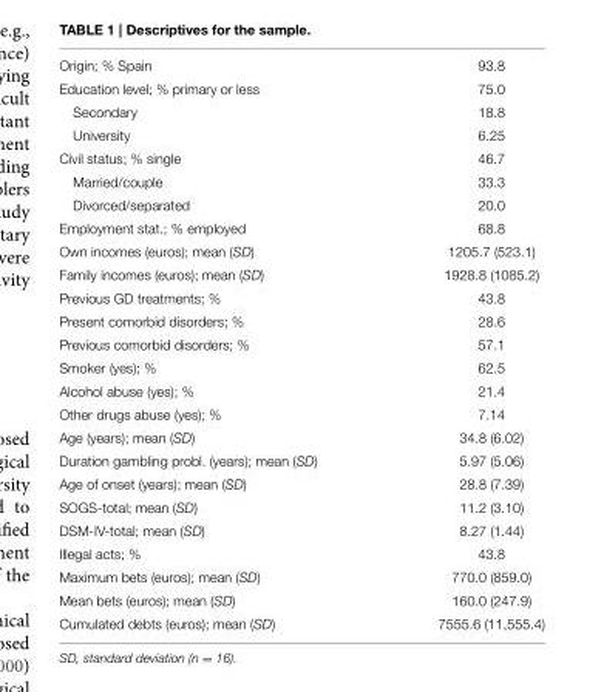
<table><tbody><tr><td>Origin; % Spain</td><td>93.8</td></tr><tr><td>Education level; % primary or less</td><td>75.0</td></tr><tr><td>Secondary</td><td>18.8</td></tr><tr><td>University</td><td>6.25</td></tr><tr><td>Civil status; % single</td><td>46.7</td></tr><tr><td>Married/couple</td><td>33.3</td></tr><tr><td>Divorced/separated</td><td>20.0</td></tr><tr><td>Employment stat.; % employed</td><td>68.8</td></tr><tr><td>Own incomes (euros); mean (SD)</td><td>1205.7 (523.1)</td></tr><tr><td>Family incomes (euros); mean (SD)</td><td>1928.8 (1085.2)</td></tr><tr><td>Previous GD treatments; %</td><td>43.8</td></tr><tr><td>Present comorbid disorders; %</td><td>28.6</td></tr><tr><td>Previous comorbid disorders; %</td><td>57.1</td></tr><tr><td>Smoker (yes); %</td><td>62.5</td></tr><tr><td>Alcohol abuse (yes); %</td><td>21.4</td></tr><tr><td>Other drugs abuse (yes); %</td><td>7.14</td></tr><tr><td>Age (years); mean (SD)</td><td>34.8 (6.02)</td></tr><tr><td>Duration gambling probl. (years); mean (SD)</td><td>5.97 (5.06)</td></tr><tr><td>Age of onset (years); mean (SD)</td><td>28.8 (7.39)</td></tr><tr><td>SOGS-total; mean (SD)</td><td>11.2 (3.10)</td></tr><tr><td>DSM-IV-total; mean (SD)</td><td>8.27 (1.44)</td></tr><tr><td>Illegal acts; %</td><td>43.8</td></tr><tr><td>Maximum bets (euros); mean (SD)</td><td>770.0 (859.0)</td></tr><tr><td>Mean bets (euros); mean (SD)</td><td>160.0 (247.9)</td></tr><tr><td>Cumulated debts (euros); mean (SD)</td><td>7555.6 (11,555.4)</td></tr></tbody></table>